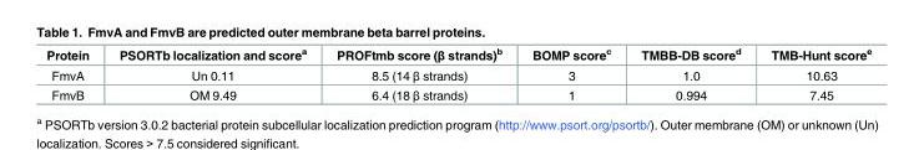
<table><thead><tr><td>Protein</td><td>PSORTb localization and score<sup>a</sup></td><td>PROFtmb score (β strands)<sup>b</sup></td><td>BOMP score<sup>c</sup></td><td>TMBB-DB score<sup>d</sup></td><td>TMB-Hunt score<sup>e</sup></td></tr></thead><tbody><tr><td>FmvA</td><td>Un 0.11</td><td>8.5 (14 β strands)</td><td>3</td><td>1.0</td><td>10.63</td></tr><tr><td>FmvB</td><td>OM 9.49</td><td>6.4 (18 β strands)</td><td>1</td><td>0.994</td><td>7.45</td></tr></tbody></table>